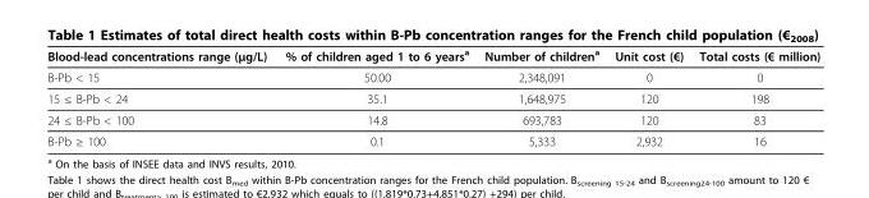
<table><thead><tr><td>Blood-lead concentrations range (μg/L)</td><td>% of children aged 1 to 6 years<sup>a</sup></td><td>Number of children<sup>a</sup></td><td>Unit cost (€)</td><td>Total costs (€ million)</td></tr></thead><tbody><tr><td>B-Pb &lt; 15</td><td>50.00</td><td>2,348,091</td><td>0</td><td>0</td></tr><tr><td>15 ≤ B-Pb &lt; 24</td><td>35.1</td><td>1,648,975</td><td>120</td><td>198</td></tr><tr><td>24 ≤ B-Pb &lt; 100</td><td>14.8</td><td>693,783</td><td>120</td><td>83</td></tr><tr><td>B-Pb ≥ 100</td><td>0.1</td><td>5,333</td><td>2,932</td><td>16</td></tr></tbody></table>